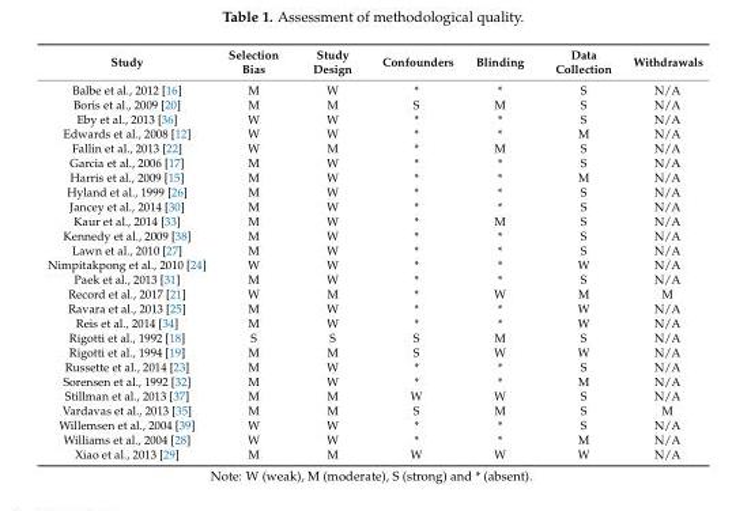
<table><thead><tr><td>Study</td><td>Selection Bias</td><td>Study Design</td><td>Confounders</td><td>Blinding</td><td>Data Collection</td><td>Withdrawals</td></tr></thead><tbody><tr><td>Balbe et al., 2012 [16]</td><td>M</td><td>W</td><td>*</td><td>*</td><td>S</td><td>N/A</td></tr><tr><td>Boris et al., 2009 [20]</td><td>M</td><td>M</td><td>S</td><td>M</td><td>S</td><td>N/A</td></tr><tr><td>Eby et al., 2013 [36]</td><td>W</td><td>W</td><td>*</td><td>*</td><td>S</td><td>N/A</td></tr><tr><td>Edwards et al., 2008 [12]</td><td>W</td><td>W</td><td>*</td><td>*</td><td>M</td><td>N/A</td></tr><tr><td>Fallin et al., 2013 [22]</td><td>W</td><td>M</td><td>*</td><td>M</td><td>S</td><td>N/A</td></tr><tr><td>Garcia et al., 2006 [17]</td><td>M</td><td>W</td><td>*</td><td>*</td><td>S</td><td>N/A</td></tr><tr><td>Harris et al., 2009 [15]</td><td>M</td><td>W</td><td>*</td><td>*</td><td>M</td><td>N/A</td></tr><tr><td>Hyland et al., 1999 [26]</td><td>M</td><td>W</td><td>*</td><td>*</td><td>S</td><td>N/A</td></tr><tr><td>Jancey et al., 2014 [30]</td><td>M</td><td>W</td><td>*</td><td>*</td><td>S</td><td>N/A</td></tr><tr><td>Kaur et al., 2014 [33]</td><td>M</td><td>W</td><td>*</td><td>M</td><td>S</td><td>N/A</td></tr><tr><td>Kennedy et al., 2009 [38]</td><td>M</td><td>W</td><td>*</td><td>*</td><td>S</td><td>N/A</td></tr><tr><td>Lawn et al., 2010 [27]</td><td>M</td><td>W</td><td>*</td><td>*</td><td>S</td><td>N/A</td></tr><tr><td>Nimpitakpong et al., 2010 [24]</td><td>W</td><td>W</td><td>*</td><td>*</td><td>W</td><td>N/A</td></tr><tr><td>Paek et al., 2013 [31]</td><td>M</td><td>W</td><td>*</td><td>*</td><td>S</td><td>N/A</td></tr><tr><td>Record et al., 2017 [21]</td><td>W</td><td>M</td><td>*</td><td>W</td><td>M</td><td>M</td></tr><tr><td>Ravara et al., 2013 [25]</td><td>M</td><td>W</td><td>*</td><td>*</td><td>W</td><td>N/A</td></tr><tr><td>Reis et al., 2014 [34]</td><td>M</td><td>W</td><td>*</td><td>*</td><td>W</td><td>N/A</td></tr><tr><td>Rigotti et al., 1992 [18]</td><td>S</td><td>S</td><td>S</td><td>M</td><td>S</td><td>N/A</td></tr><tr><td>Rigotti et al., 1994 [19]</td><td>M</td><td>M</td><td>S</td><td>W</td><td>W</td><td>N/A</td></tr><tr><td>Russette et al., 2014 [23]</td><td>M</td><td>W</td><td>*</td><td>*</td><td>S</td><td>N/A</td></tr><tr><td>Sorensen et al., 1992 [32]</td><td>M</td><td>W</td><td>*</td><td>*</td><td>M</td><td>N/A</td></tr><tr><td>Stillman et al., 2013 [37]</td><td>M</td><td>M</td><td>W</td><td>W</td><td>S</td><td>N/A</td></tr><tr><td>Vardavas et al., 2013 [35]</td><td>M</td><td>M</td><td>S</td><td>M</td><td>S</td><td>M</td></tr><tr><td>Willemsen et al., 2004 [39]</td><td>W</td><td>W</td><td>*</td><td>*</td><td>S</td><td>N/A</td></tr><tr><td>Williams et al., 2004 [28]</td><td>W</td><td>W</td><td>*</td><td>*</td><td>M</td><td>N/A</td></tr><tr><td>Xiao et al., 2013 [29]</td><td>M</td><td>M</td><td>W</td><td>W</td><td>W</td><td>N/A</td></tr></tbody></table>